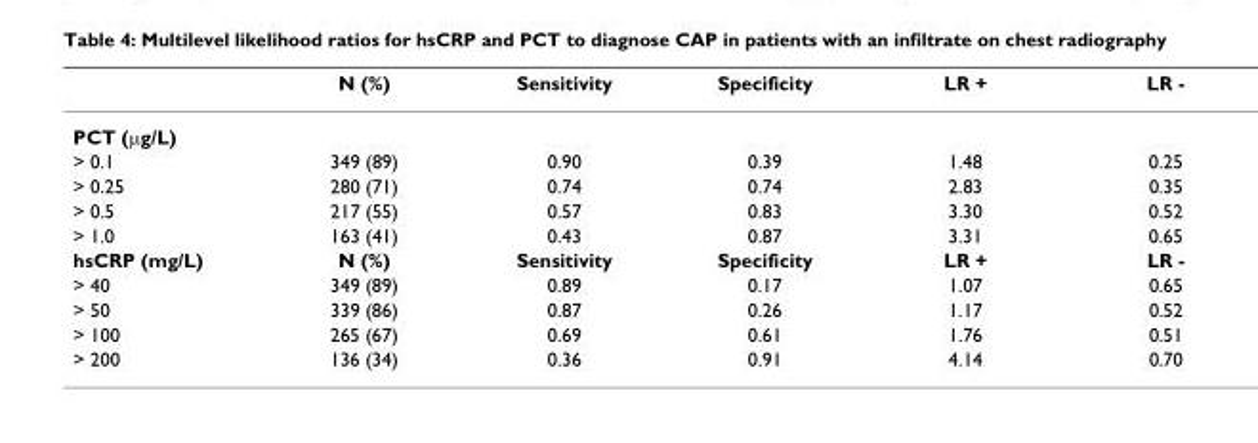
<table><thead><tr><td></td><td>N (%)</td><td>Sensitivity</td><td>Specificity</td><td>LR +</td><td>LR -</td></tr></thead><tbody><tr><td colspan="6">PCT (µg/L)</td></tr><tr><td>&gt; 0.1</td><td>349 (89)</td><td>0.90</td><td>0.39</td><td>1.48</td><td>0.25</td></tr><tr><td>&gt; 0.25</td><td>280 (71)</td><td>0.74</td><td>0.74</td><td>2.83</td><td>0.35</td></tr><tr><td>&gt; 0.5</td><td>217 (55)</td><td>0.57</td><td>0.83</td><td>3.30</td><td>0.52</td></tr><tr><td>&gt; 1.0</td><td>163 (41)</td><td>0.43</td><td>0.87</td><td>3.31</td><td>0.65</td></tr><tr><td>hsCRP (mg/L)</td><td>N (%)</td><td>Sensitivity</td><td>Specificity</td><td>LR +</td><td>LR -</td></tr><tr><td>&gt; 40</td><td>349 (89)</td><td>0.89</td><td>0.17</td><td>1.07</td><td>0.65</td></tr><tr><td>&gt; 50</td><td>339 (86)</td><td>0.87</td><td>0.26</td><td>1.17</td><td>0.52</td></tr><tr><td>&gt; 100</td><td>265 (67)</td><td>0.69</td><td>0.61</td><td>1.76</td><td>0.51</td></tr><tr><td>&gt; 200</td><td>136 (34)</td><td>0.36</td><td>0.91</td><td>4.14</td><td>0.70</td></tr></tbody></table>